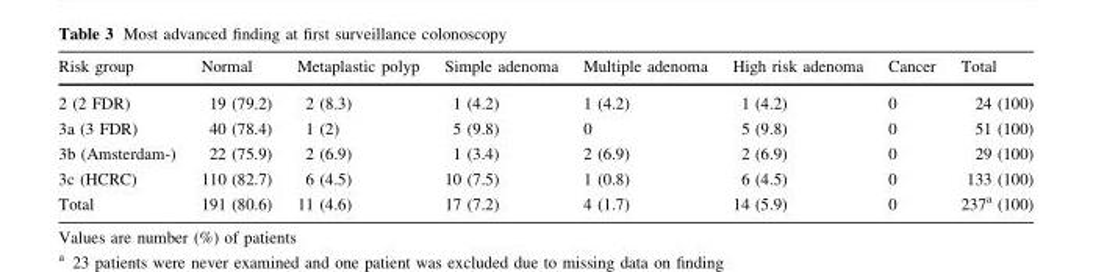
<table><thead><tr><td>Risk group</td><td>Normal</td><td>Metaplastic polyp</td><td>Simple adenoma</td><td>Multiple adenoma</td><td>High risk adenoma</td><td>Cancer</td><td>Total</td></tr></thead><tbody><tr><td>2 (2 FDR)</td><td>19 (79.2)</td><td>2 (8.3)</td><td>1 (4.2)</td><td>1 (4.2)</td><td>1 (4.2)</td><td>0</td><td>24 (100)</td></tr><tr><td>3a (3 FDR)</td><td>40 (78.4)</td><td>1 (2)</td><td>5 (9.8)</td><td>0</td><td>5 (9.8)</td><td>0</td><td>51 (100)</td></tr><tr><td>3b (Amsterdam-)</td><td>22 (75.9)</td><td>2 (6.9)</td><td>1 (3.4)</td><td>2 (6.9)</td><td>2 (6.9)</td><td>0</td><td>29 (100)</td></tr><tr><td>3c (HCRC)</td><td>110 (82.7)</td><td>6 (4.5)</td><td>10 (7.5)</td><td>1 (0.8)</td><td>6 (4.5)</td><td>0</td><td>133 (100)</td></tr><tr><td>Total</td><td>191 (80.6)</td><td>11 (4.6)</td><td>17 (7.2)</td><td>4 (1.7)</td><td>14 (5.9)</td><td>0</td><td>237<sup>a</sup> (100)</td></tr></tbody></table>